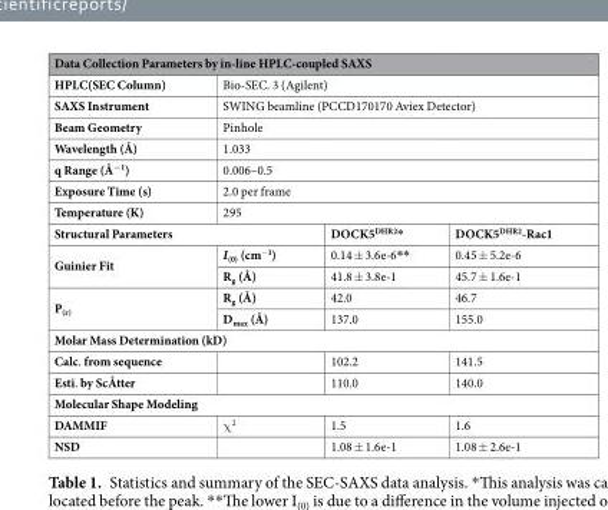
<table><thead><tr><td colspan="4">Data Collection Parameters by in-line HPLC-coupled SAXS</td></tr></thead><tbody><tr><td>HPLC(SEC Column)</td><td colspan="3">Bio-SEC. 3 (Agilent)</td></tr><tr><td>SAXS Instrument</td><td colspan="3">SWING beamline (PCCD170170 Aviex Detector)</td></tr><tr><td>Beam Geometry</td><td colspan="3">Pinhole</td></tr><tr><td>Wavelength (Å)</td><td colspan="3">1.033</td></tr><tr><td>q Range (Å<sup>−1</sup>)</td><td colspan="3">0.006–0.5</td></tr><tr><td>Exposure Time (s)</td><td colspan="3">2.0 per frame</td></tr><tr><td>Temperature (K)</td><td colspan="3">295</td></tr><tr><td colspan="2">Structural Parameters</td><td>DOCK5<sup>DHR2</sup>*</td><td>DOCK5<sup>DHR2</sup>-Rac1</td></tr><tr><td rowspan="2">Guinier Fit</td><td>I<sub>(0)</sub> (cm<sup>−1</sup>)</td><td>0.14 ± 3.6e-6**</td><td>0.45 ± 5.2e-6</td></tr><tr><td>R<sub>g</sub> (Å)</td><td>41.8 ± 3.8e-1</td><td>45.7 ± 1.6e-1</td></tr><tr><td rowspan="2">P<sub>(r)</sub></td><td>R<sub>g</sub> (Å)</td><td>42.0</td><td>46.7</td></tr><tr><td>D<sub>max</sub> (Å)</td><td>137.0</td><td>155.0</td></tr><tr><td colspan="4">Molar Mass Determination (kD)</td></tr><tr><td>Calc. from sequence</td><td></td><td>102.2</td><td>141.5</td></tr><tr><td>Esti. by ScÅtter</td><td></td><td>110.0</td><td>140.0</td></tr><tr><td colspan="4">Molecular Shape Modeling</td></tr><tr><td>DAMMIF</td><td>χ<sup>2</sup></td><td>1.5</td><td>1.6</td></tr><tr><td>NSD</td><td></td><td>1.08 ± 1.6e-1</td><td>1.08 ± 2.6e-1</td></tr></tbody></table>